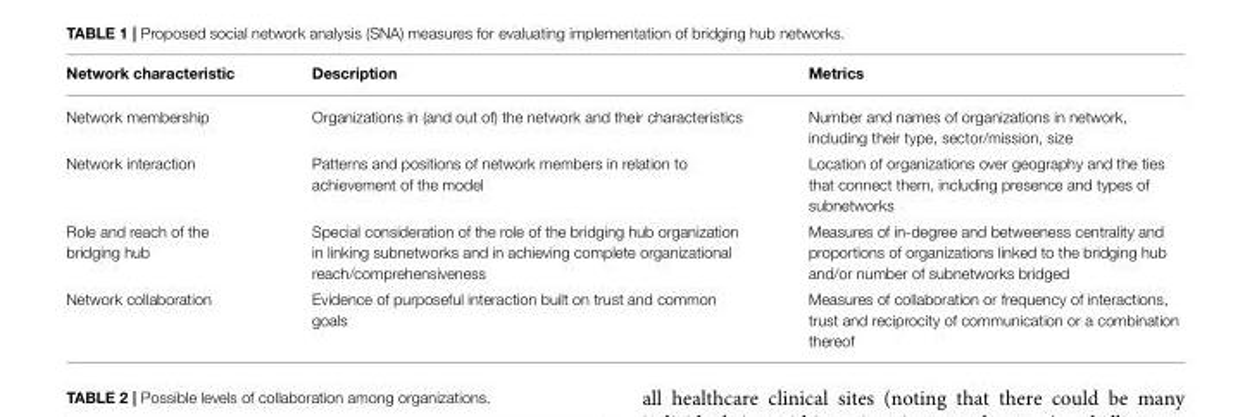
<table><thead><tr><td>Network characteristic</td><td>Description</td><td>Metrics</td></tr></thead><tbody><tr><td>Network membership</td><td>Organizations in (and out of) the network and their characteristics</td><td>Number and names of organizations in network, including their type, sector/mission, size</td></tr><tr><td>Network interaction</td><td>Patterns and positions of network members in relation to achievement of the model</td><td>Location of organizations over geography and the ties that connect them, including presence and types of subnetworks</td></tr><tr><td>Role and reach of the bridging hub</td><td>Special consideration of the role of the bridging hub organization in linking subnetworks and in achieving complete organizational reach/comprehensiveness</td><td>Measures of in-degree and betweeness centrality and proportions of organizations linked to the bridging hub and/or number of subnetworks bridged</td></tr><tr><td>Network collaboration</td><td>Evidence of purposeful interaction built on trust and common goals</td><td>Measures of collaboration or frequency of interactions, trust and reciprocity of communication or a combination thereof</td></tr></tbody></table>